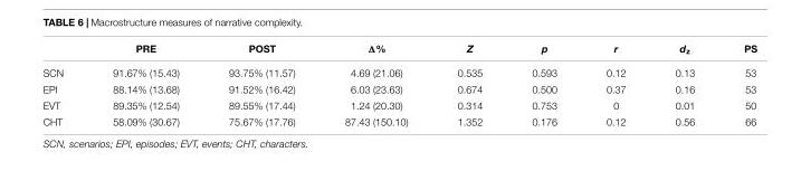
<table><thead><tr><td></td><td>PRE</td><td>POST</td><td>Δ%</td><td>Z</td><td>p</td><td>r</td><td>d<sub>z</sub></td><td>PS</td></tr></thead><tbody><tr><td>SCN</td><td>91.67% (15.43)</td><td>93.75% (11.57)</td><td>4.69 (21.06)</td><td>0.535</td><td>0.593</td><td>0.12</td><td>0.13</td><td>53</td></tr><tr><td>EPI</td><td>88.14% (13.68)</td><td>91.52% (16.42)</td><td>6.03 (23.63)</td><td>0.674</td><td>0.500</td><td>0.37</td><td>0.16</td><td>53</td></tr><tr><td>EVT</td><td>89.35% (12.54)</td><td>89.55% (17.44)</td><td>1.24 (20.30)</td><td>0.314</td><td>0.753</td><td>0</td><td>0.01</td><td>50</td></tr><tr><td>CHT</td><td>58.09% (30.67)</td><td>75.67% (17.76)</td><td>87.43 (150.10)</td><td>1.352</td><td>0.176</td><td>0.12</td><td>0.56</td><td>66</td></tr></tbody></table>